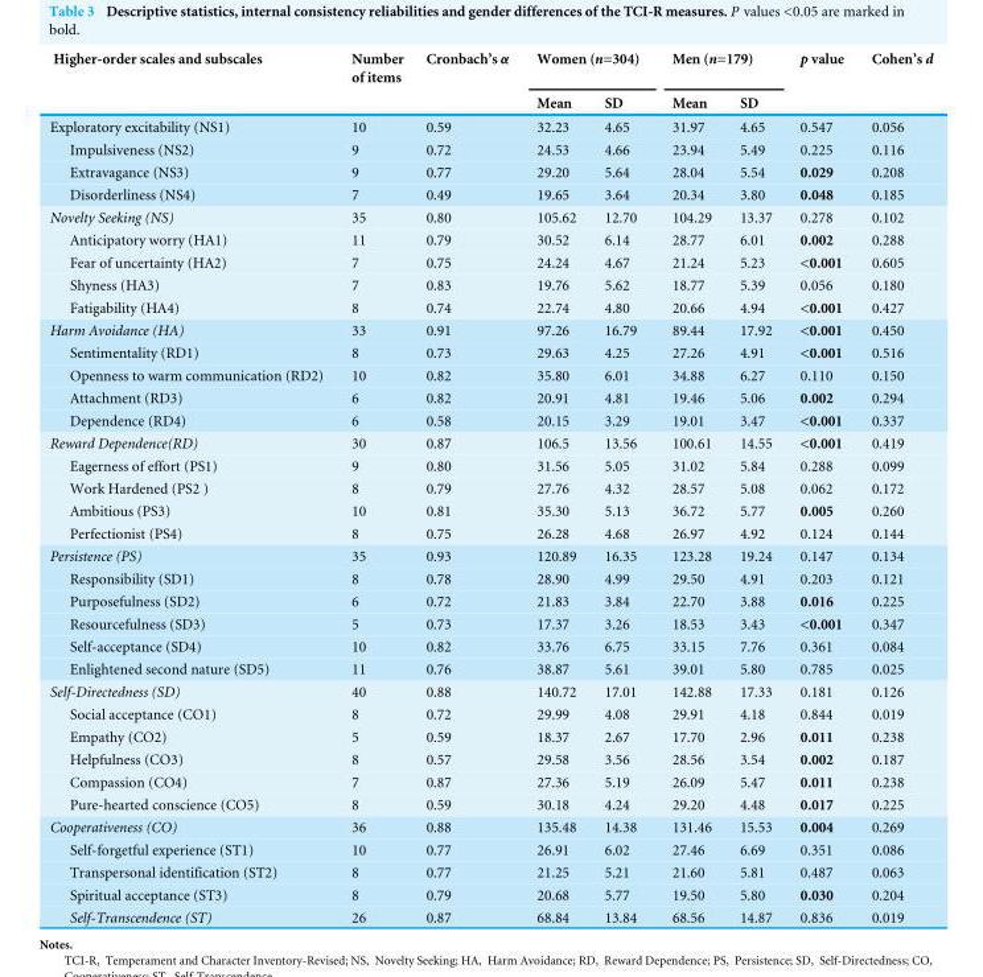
<table><thead><tr><td rowspan="2">Higher-order scales and subscales</td><td rowspan="2">Number of items</td><td rowspan="2">Cronbach’s α</td><td colspan="2">Women (n=304)</td><td colspan="2">Men (n=179)</td><td rowspan="2">p value</td><td rowspan="2">Cohen’s d</td></tr><tr><td>Mean</td><td>SD</td><td>Mean</td><td>SD</td></tr></thead><tbody><tr><td>Exploratory excitability (NS1)</td><td>10</td><td>0.59</td><td>32.23</td><td>4.65</td><td>31.97</td><td>4.65</td><td>0.547</td><td>0.056</td></tr><tr><td>Impulsiveness (NS2)</td><td>9</td><td>0.72</td><td>24.53</td><td>4.66</td><td>23.94</td><td>5.49</td><td>0.225</td><td>0.116</td></tr><tr><td>Extravagance (NS3)</td><td>9</td><td>0.77</td><td>29.20</td><td>5.64</td><td>28.04</td><td>5.54</td><td>0.029</td><td>0.208</td></tr><tr><td>Disorderliness (NS4)</td><td>7</td><td>0.49</td><td>19.65</td><td>3.64</td><td>20.34</td><td>3.80</td><td>0.048</td><td>0.185</td></tr><tr><td>Novelty Seeking (NS)</td><td>35</td><td>0.80</td><td>105.62</td><td>12.70</td><td>104.29</td><td>13.37</td><td>0.278</td><td>0.102</td></tr><tr><td>Anticipatory worry (HA1)</td><td>11</td><td>0.79</td><td>30.52</td><td>6.14</td><td>28.77</td><td>6.01</td><td>0.002</td><td>0.288</td></tr><tr><td>Fear of uncertainty (HA2)</td><td>7</td><td>0.75</td><td>24.24</td><td>4.67</td><td>21.24</td><td>5.23</td><td>&lt;0.001</td><td>0.605</td></tr><tr><td>Shyness (HA3)</td><td>7</td><td>0.83</td><td>19.76</td><td>5.62</td><td>18.77</td><td>5.39</td><td>0.056</td><td>0.180</td></tr><tr><td>Fatigability (HA4)</td><td>8</td><td>0.74</td><td>22.74</td><td>4.80</td><td>20.66</td><td>4.94</td><td>&lt;0.001</td><td>0.427</td></tr><tr><td>Harm Avoidance (HA)</td><td>33</td><td>0.91</td><td>97.26</td><td>16.79</td><td>89.44</td><td>17.92</td><td>&lt;0.001</td><td>0.450</td></tr><tr><td>Sentimentality (RD1)</td><td>8</td><td>0.73</td><td>29.63</td><td>4.25</td><td>27.26</td><td>4.91</td><td>&lt;0.001</td><td>0.516</td></tr><tr><td>Openness to warm communication (RD2)</td><td>10</td><td>0.82</td><td>35.80</td><td>6.01</td><td>34.88</td><td>6.27</td><td>0.110</td><td>0.150</td></tr><tr><td>Attachment (RD3)</td><td>6</td><td>0.82</td><td>20.91</td><td>4.81</td><td>19.46</td><td>5.06</td><td>0.002</td><td>0.294</td></tr><tr><td>Dependence (RD4)</td><td>6</td><td>0.58</td><td>20.15</td><td>3.29</td><td>19.01</td><td>3.47</td><td>&lt;0.001</td><td>0.337</td></tr><tr><td>Reward Dependence(RD)</td><td>30</td><td>0.87</td><td>106.5</td><td>13.56</td><td>100.61</td><td>14.55</td><td>&lt;0.001</td><td>0.419</td></tr><tr><td>Eagerness of effort (PS1)</td><td>9</td><td>0.80</td><td>31.56</td><td>5.05</td><td>31.02</td><td>5.84</td><td>0.288</td><td>0.099</td></tr><tr><td>Work Hardened (PS2 )</td><td>8</td><td>0.79</td><td>27.76</td><td>4.32</td><td>28.57</td><td>5.08</td><td>0.062</td><td>0.172</td></tr><tr><td>Ambitious (PS3)</td><td>10</td><td>0.81</td><td>35.30</td><td>5.13</td><td>36.72</td><td>5.77</td><td>0.005</td><td>0.260</td></tr><tr><td>Perfectionist (PS4)</td><td>8</td><td>0.75</td><td>26.28</td><td>4.68</td><td>26.97</td><td>4.92</td><td>0.124</td><td>0.144</td></tr><tr><td>Persistence (PS)</td><td>35</td><td>0.93</td><td>120.89</td><td>16.35</td><td>123.28</td><td>19.24</td><td>0.147</td><td>0.134</td></tr><tr><td>Responsibility (SD1)</td><td>8</td><td>0.78</td><td>28.90</td><td>4.99</td><td>29.50</td><td>4.91</td><td>0.203</td><td>0.121</td></tr><tr><td>Purposefulness (SD2)</td><td>6</td><td>0.72</td><td>21.83</td><td>3.84</td><td>22.70</td><td>3.88</td><td>0.016</td><td>0.225</td></tr><tr><td>Resourcefulness (SD3)</td><td>5</td><td>0.73</td><td>17.37</td><td>3.26</td><td>18.53</td><td>3.43</td><td>&lt;0.001</td><td>0.347</td></tr><tr><td>Self-acceptance (SD4)</td><td>10</td><td>0.82</td><td>33.76</td><td>6.75</td><td>33.15</td><td>7.76</td><td>0.361</td><td>0.084</td></tr><tr><td>Enlightened second nature (SD5)</td><td>11</td><td>0.76</td><td>38.87</td><td>5.61</td><td>39.01</td><td>5.80</td><td>0.785</td><td>0.025</td></tr><tr><td>Self-Directedness (SD)</td><td>40</td><td>0.88</td><td>140.72</td><td>17.01</td><td>142.88</td><td>17.33</td><td>0.181</td><td>0.126</td></tr><tr><td>Social acceptance (CO1)</td><td>8</td><td>0.72</td><td>29.99</td><td>4.08</td><td>29.91</td><td>4.18</td><td>0.844</td><td>0.019</td></tr><tr><td>Empathy (CO2)</td><td>5</td><td>0.59</td><td>18.37</td><td>2.67</td><td>17.70</td><td>2.96</td><td>0.011</td><td>0.238</td></tr><tr><td>Helpfulness (CO3)</td><td>8</td><td>0.57</td><td>29.58</td><td>3.56</td><td>28.56</td><td>3.54</td><td>0.002</td><td>0.187</td></tr><tr><td>Compassion (CO4)</td><td>7</td><td>0.87</td><td>27.36</td><td>5.19</td><td>26.09</td><td>5.47</td><td>0.011</td><td>0.238</td></tr><tr><td>Pure-hearted conscience (CO5)</td><td>8</td><td>0.59</td><td>30.18</td><td>4.24</td><td>29.20</td><td>4.48</td><td>0.017</td><td>0.225</td></tr><tr><td>Cooperativeness (CO)</td><td>36</td><td>0.88</td><td>135.48</td><td>14.38</td><td>131.46</td><td>15.53</td><td>0.004</td><td>0.269</td></tr><tr><td>Self-forgetful experience (ST1)</td><td>10</td><td>0.77</td><td>26.91</td><td>6.02</td><td>27.46</td><td>6.69</td><td>0.351</td><td>0.086</td></tr><tr><td>Transpersonal identification (ST2)</td><td>8</td><td>0.77</td><td>21.25</td><td>5.21</td><td>21.60</td><td>5.81</td><td>0.487</td><td>0.063</td></tr><tr><td>Spiritual acceptance (ST3)</td><td>8</td><td>0.79</td><td>20.68</td><td>5.77</td><td>19.50</td><td>5.80</td><td>0.030</td><td>0.204</td></tr><tr><td>Self-Transcendence (ST)</td><td>26</td><td>0.87</td><td>68.84</td><td>13.84</td><td>68.56</td><td>14.87</td><td>0.836</td><td>0.019</td></tr></tbody></table>